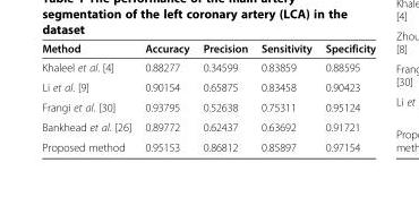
<table><thead><tr><td>Method</td><td>Accuracy</td><td>Precision</td><td>Sensitivity</td><td>Specificity</td></tr></thead><tbody><tr><td>Khaleel et al. [4]</td><td>0.88277</td><td>0.34599</td><td>0.83859</td><td>0.88595</td></tr><tr><td>Li et al. [9]</td><td>0.90154</td><td>0.65875</td><td>0.83458</td><td>0.90423</td></tr><tr><td>Frangi et al. [30]</td><td>0.93795</td><td>0.52638</td><td>0.75311</td><td>0.95124</td></tr><tr><td>Bankhead et al. [26]</td><td>0.89772</td><td>0.62437</td><td>0.63692</td><td>0.91721</td></tr><tr><td>Proposed method</td><td>0.95153</td><td>0.86812</td><td>0.85897</td><td>0.97154</td></tr></tbody></table>